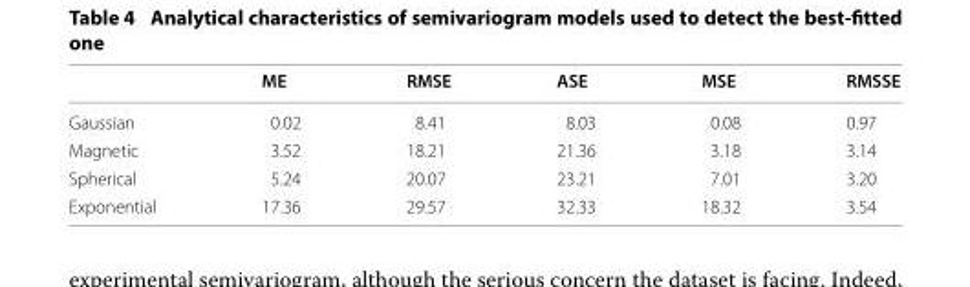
<table><thead><tr><td></td><td>ME</td><td>RMSE</td><td>ASE</td><td>MSE</td><td>RMSSE</td></tr></thead><tbody><tr><td>Gaussian</td><td>0.02</td><td>8.41</td><td>8.03</td><td>0.08</td><td>0.97</td></tr><tr><td>Magnetic</td><td>3.52</td><td>18.21</td><td>21.36</td><td>3.18</td><td>3.14</td></tr><tr><td>Spherical</td><td>5.24</td><td>20.07</td><td>23.21</td><td>7.01</td><td>3.20</td></tr><tr><td>Exponential</td><td>17.36</td><td>29.57</td><td>32.33</td><td>18.32</td><td>3.54</td></tr></tbody></table>